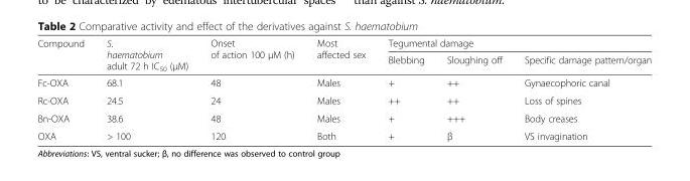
<table><thead><tr><td rowspan="2">Compound</td><td rowspan="2">S. haematobium adult 72 h IC<sub>50</sub> (μM)</td><td rowspan="2">Onset of action 100 μM (h)</td><td rowspan="2">Most affected sex</td><td colspan="3">Tegumental damage</td></tr><tr><td>Blebbing</td><td>Sloughing off</td><td>Specific damage pattern/organ</td></tr></thead><tbody><tr><td>Fc-OXA</td><td>68.1</td><td>48</td><td>Males</td><td>+</td><td>++</td><td>Gynaecophoric canal</td></tr><tr><td>Rc-OXA</td><td>24.5</td><td>24</td><td>Males</td><td>++</td><td>++</td><td>Loss of spines</td></tr><tr><td>Bn-OXA</td><td>38.6</td><td>48</td><td>Males</td><td>+</td><td>+++</td><td>Body creases</td></tr><tr><td>OXA</td><td>&gt; 100</td><td>120</td><td>Both</td><td>+</td><td>β</td><td>VS invagination</td></tr></tbody></table>